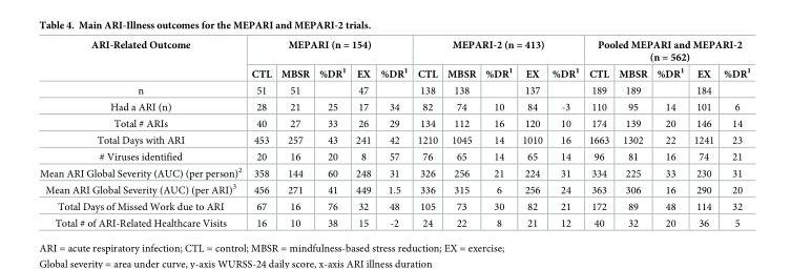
<table><thead><tr><td rowspan="2">ARI-Related Outcome</td><td colspan="5">MEPARI (n = 154)</td><td colspan="5">MEPARI-2 (n = 413)</td><td colspan="5">Pooled MEPARI and MEPARI-2 (n = 562)</td></tr><tr><td>CTL</td><td>MBSR</td><td>%DR<sup>1</sup></td><td>EX</td><td>%DR<sup>1</sup></td><td>CTL</td><td>MBSR</td><td>%DR<sup>1</sup></td><td>EX</td><td>%DR<sup>1</sup></td><td>CTL</td><td>MBSR</td><td>%DR<sup>1</sup></td><td>EX</td><td>%DR<sup>1</sup></td></tr></thead><tbody><tr><td>n</td><td>51</td><td>51</td><td></td><td>47</td><td></td><td>138</td><td>138</td><td></td><td>137</td><td></td><td>189</td><td>189</td><td></td><td>184</td><td></td></tr><tr><td>Had a ARI (n)</td><td>28</td><td>21</td><td>25</td><td>17</td><td>34</td><td>82</td><td>74</td><td>10</td><td>84</td><td>-3</td><td>110</td><td>95</td><td>14</td><td>101</td><td>6</td></tr><tr><td>Total # ARIs</td><td>40</td><td>27</td><td>33</td><td>26</td><td>29</td><td>134</td><td>112</td><td>16</td><td>120</td><td>10</td><td>174</td><td>139</td><td>20</td><td>146</td><td>14</td></tr><tr><td>Total Days with ARI</td><td>453</td><td>257</td><td>43</td><td>241</td><td>42</td><td>1210</td><td>1045</td><td>14</td><td>1010</td><td>16</td><td>1663</td><td>1302</td><td>22</td><td>1241</td><td>23</td></tr><tr><td># Viruses identified</td><td>20</td><td>16</td><td>20</td><td>8</td><td>57</td><td>76</td><td>65</td><td>14</td><td>65</td><td>14</td><td>96</td><td>81</td><td>16</td><td>74</td><td>21</td></tr><tr><td>Mean ARI Global Severity (AUC) (per person)<sup>2</sup></td><td>358</td><td>144</td><td>60</td><td>248</td><td>31</td><td>326</td><td>256</td><td>21</td><td>224</td><td>31</td><td>334</td><td>225</td><td>33</td><td>230</td><td>31</td></tr><tr><td>Mean ARI Global Severity (AUC) (per ARI)<sup>3</sup></td><td>456</td><td>271</td><td>41</td><td>449</td><td>1.5</td><td>336</td><td>315</td><td>6</td><td>256</td><td>24</td><td>363</td><td>306</td><td>16</td><td>290</td><td>20</td></tr><tr><td>Total Days of Missed Work due to ARI</td><td>67</td><td>16</td><td>76</td><td>32</td><td>48</td><td>105</td><td>73</td><td>30</td><td>82</td><td>21</td><td>172</td><td>89</td><td>48</td><td>114</td><td>32</td></tr><tr><td>Total # of ARI-Related Healthcare Visits</td><td>16</td><td>10</td><td>38</td><td>15</td><td>-2</td><td>24</td><td>22</td><td>8</td><td>21</td><td>12</td><td>40</td><td>32</td><td>20</td><td>36</td><td>5</td></tr></tbody></table>